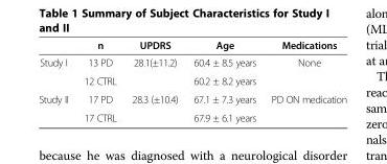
<table><thead><tr><td></td><td>n</td><td>UPDRS</td><td>Age</td><td>Medications</td></tr></thead><tbody><tr><td rowspan="2">Study I</td><td>13 PD</td><td>28.1(±11.2)</td><td>60.4 ± 8.5 years</td><td>None</td></tr><tr><td>12 CTRL</td><td></td><td>60.2 ± 8.2 years</td><td></td></tr><tr><td rowspan="2">Study II</td><td>17 PD</td><td>28.3 (±10.4)</td><td>67.1 ± 7.3 years</td><td>PD ON medication</td></tr><tr><td>17 CTRL</td><td></td><td>67.9 ± 6.1 years</td><td></td></tr></tbody></table>